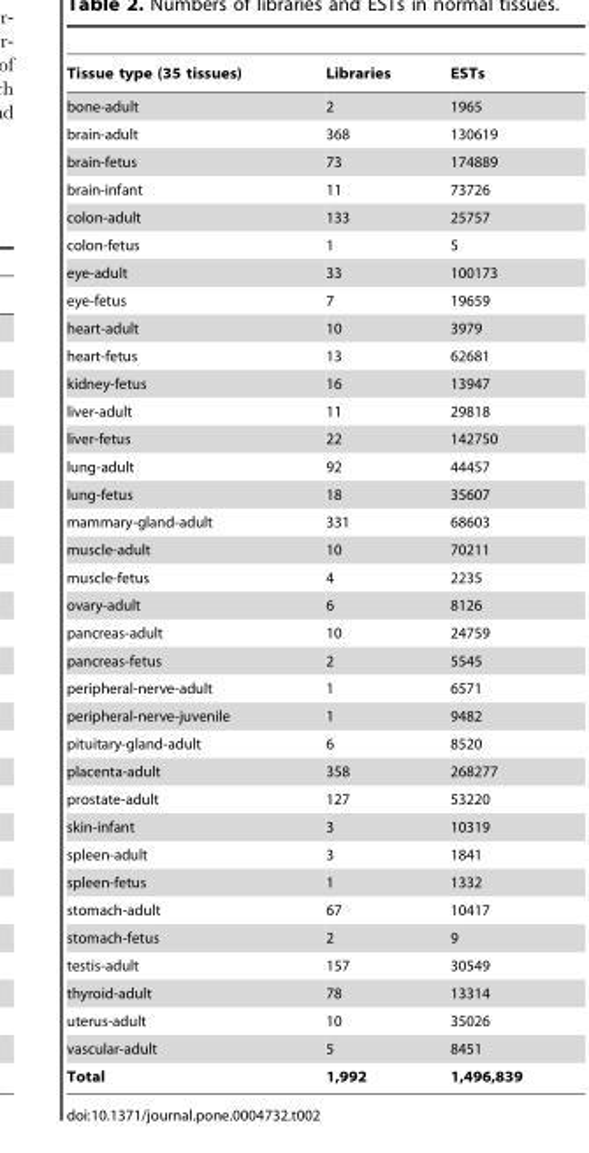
<table><thead><tr><td>Tissue type (35 tissues)</td><td>Libraries</td><td>ESTs</td></tr></thead><tbody><tr><td>bone-adult</td><td>2</td><td>1965</td></tr><tr><td>brain-adult</td><td>368</td><td>130619</td></tr><tr><td>brain-fetus</td><td>73</td><td>174889</td></tr><tr><td>brain-infant</td><td>11</td><td>73726</td></tr><tr><td>colon-adult</td><td>133</td><td>25757</td></tr><tr><td>colon-fetus</td><td>1</td><td>5</td></tr><tr><td>eye-adult</td><td>33</td><td>100173</td></tr><tr><td>eye-fetus</td><td>7</td><td>19659</td></tr><tr><td>heart-adult</td><td>10</td><td>3979</td></tr><tr><td>heart-fetus</td><td>13</td><td>62681</td></tr><tr><td>kidney-fetus</td><td>16</td><td>13947</td></tr><tr><td>liver-adult</td><td>11</td><td>29818</td></tr><tr><td>liver-fetus</td><td>22</td><td>142750</td></tr><tr><td>lung-adult</td><td>92</td><td>44457</td></tr><tr><td>lung-fetus</td><td>18</td><td>35607</td></tr><tr><td>mammary-gland-adult</td><td>331</td><td>68603</td></tr><tr><td>muscle-adult</td><td>10</td><td>70211</td></tr><tr><td>muscle-fetus</td><td>4</td><td>2235</td></tr><tr><td>ovary-adult</td><td>6</td><td>8126</td></tr><tr><td>pancreas-adult</td><td>10</td><td>24759</td></tr><tr><td>pancreas-fetus</td><td>2</td><td>5545</td></tr><tr><td>peripheral-nerve-adult</td><td>1</td><td>6571</td></tr><tr><td>peripheral-nerve-juvenile</td><td>1</td><td>9482</td></tr><tr><td>pituitary-gland-adult</td><td>6</td><td>8520</td></tr><tr><td>placenta-adult</td><td>358</td><td>268277</td></tr><tr><td>prostate-adult</td><td>127</td><td>53220</td></tr><tr><td>skin-infant</td><td>3</td><td>10319</td></tr><tr><td>spleen-adult</td><td>3</td><td>1841</td></tr><tr><td>spleen-fetus</td><td>1</td><td>1332</td></tr><tr><td>stomach-adult</td><td>67</td><td>10417</td></tr><tr><td>stomach-fetus</td><td>2</td><td>9</td></tr><tr><td>testis-adult</td><td>157</td><td>30549</td></tr><tr><td>thyroid-adult</td><td>78</td><td>13314</td></tr><tr><td>uterus-adult</td><td>10</td><td>35026</td></tr><tr><td>vascular-adult</td><td>5</td><td>8451</td></tr><tr><td>Total</td><td>1,992</td><td>1,496,839</td></tr></tbody></table>